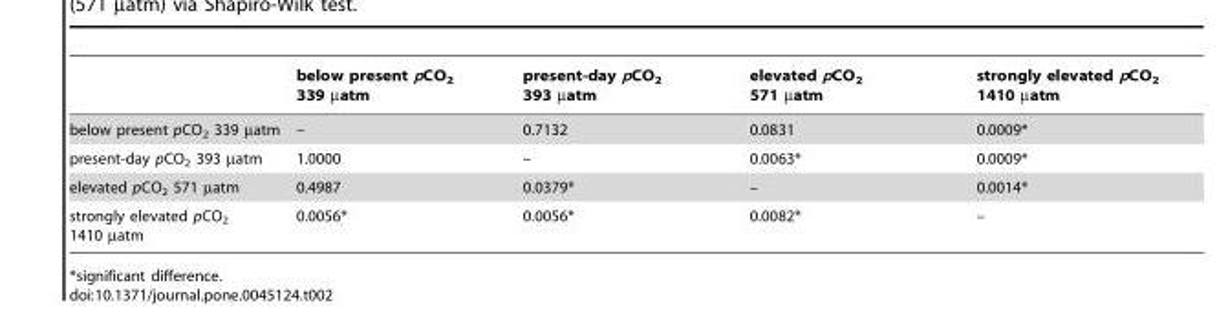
<table><thead><tr><td></td><td>below present pCO<sub>2</sub> 339 µatm</td><td>present-day pCO<sub>2</sub> 393 µatm</td><td>elevated pCO<sub>2</sub> 571 µatm</td><td>strongly elevated pCO<sub>2</sub> 1410 µatm</td></tr></thead><tbody><tr><td>below present pCO<sub>2</sub> 339 µatm</td><td>–</td><td>0.7132</td><td>0.0831</td><td>0.0009*</td></tr><tr><td>present-day pCO<sub>2</sub> 393 µatm</td><td>1.0000</td><td>–</td><td>0.0063*</td><td>0.0009*</td></tr><tr><td>elevated pCO<sub>2</sub> 571 µatm</td><td>0.4987</td><td>0.0379*</td><td>–</td><td>0.0014*</td></tr><tr><td>strongly elevated pCO<sub>2</sub> 1410 µatm</td><td>0.0056*</td><td>0.0056*</td><td>0.0082*</td><td>–</td></tr></tbody></table>